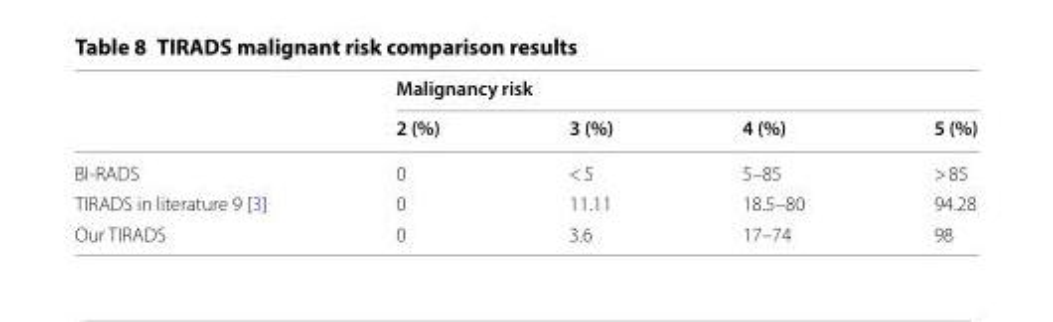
<table><thead><tr><td rowspan="2"></td><td colspan="4">Malignancy risk</td></tr><tr><td>2 (%)</td><td>3 (%)</td><td>4 (%)</td><td>5 (%)</td></tr></thead><tbody><tr><td>BI-RADS</td><td>0</td><td>&lt; 5</td><td>5–85</td><td>&gt; 85</td></tr><tr><td>TIRADS in literature 9 [3]</td><td>0</td><td>11.11</td><td>18.5–80</td><td>94.28</td></tr><tr><td>Our TIRADS</td><td>0</td><td>3.6</td><td>17–74</td><td>98</td></tr></tbody></table>